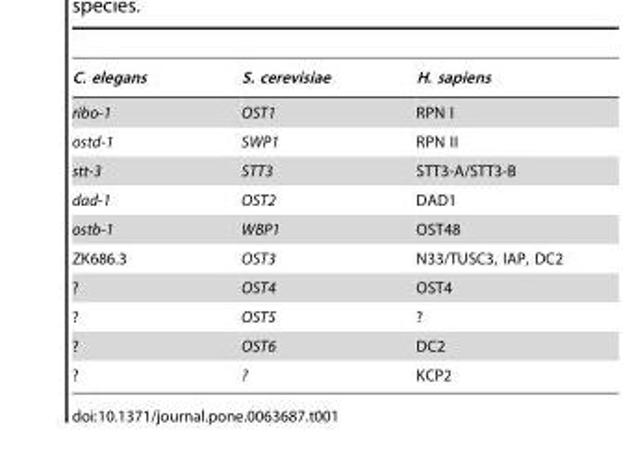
<table><thead><tr><td>C. elegans</td><td>S. cerevisiae</td><td>H. sapiens</td></tr></thead><tbody><tr><td>ribo-1</td><td>OST1</td><td>RPN I</td></tr><tr><td>ostd-1</td><td>SWP1</td><td>RPN II</td></tr><tr><td>stt-3</td><td>STT3</td><td>STT3-A/STT3-B</td></tr><tr><td>dad-1</td><td>OST2</td><td>DAD1</td></tr><tr><td>ostb-1</td><td>WBP1</td><td>OST48</td></tr><tr><td>ZK686.3</td><td>OST3</td><td>N33/TUSC3, IAP, DC2</td></tr><tr><td>?</td><td>OST4</td><td>OST4</td></tr><tr><td>?</td><td>OST5</td><td>?</td></tr><tr><td>?</td><td>OST6</td><td>DC2</td></tr><tr><td>?</td><td>?</td><td>KCP2</td></tr></tbody></table>